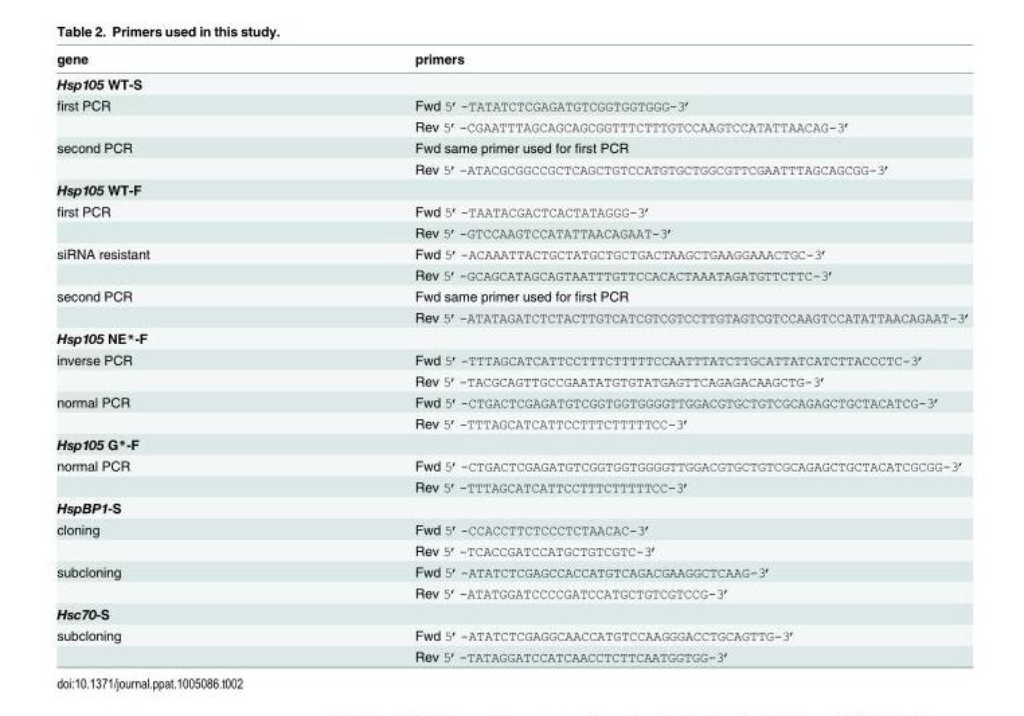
<table><thead><tr><td>gene</td><td>primers</td></tr></thead><tbody><tr><td colspan="2">Hsp105 WT-S</td></tr><tr><td rowspan="2">first PCR</td><td>Fwd 5’-TATATCTCGAGATGTCGGTGGTGGG-3’</td></tr><tr><td>Rev 5’-CGAATTTAGCAGCAGCGGTTTCTTTGTCCAAGTCCATATTAACAG-3’</td></tr><tr><td rowspan="2">second PCR</td><td>Fwd same primer used for first PCR</td></tr><tr><td>Rev 5’-ATACGCGGCCGCTCAGCTGTCCATGTGCTGGCGTTCGAATTTAGCAGCGG-3’</td></tr><tr><td colspan="2">Hsp105 WT-F</td></tr><tr><td rowspan="2">first PCR</td><td>Fwd 5’-TAATACGACTCACTATAGGG-3’</td></tr><tr><td>Rev 5’-GTCCAAGTCCATATTAACAGAAT-3’</td></tr><tr><td rowspan="2">siRNA resistant</td><td>Fwd 5’-ACAAATTACTGCTATGCTGCTGACTAAGCTGAAGGAAACTGC-3’</td></tr><tr><td>Rev 5’-GCAGCATAGCAGTAATTTGTTCCACACTAAATAGATGTTCTTC-3’</td></tr><tr><td rowspan="2">second PCR</td><td>Fwd same primer used for first PCR</td></tr><tr><td>Rev 5’-ATATAGATCTCTACTTGTCATCGTCGTCCTTGTAGTCGTCCAAGTCCATATTAACAGAAT-3’</td></tr><tr><td colspan="2">Hsp105 NE*-F</td></tr><tr><td rowspan="2">inverse PCR</td><td>Fwd 5’-TTTAGCATCATTCCTTTCTTTTTCCAATTTATCTTGCATTATCATCTTACCCTC-3’</td></tr><tr><td>Rev 5’-TACGCAGTTGCCGAATATGTGTATGAGTTCAGAGACAAGCTG-3’</td></tr><tr><td rowspan="2">normal PCR</td><td>Fwd 5’-CTGACTCGAGATGTCGGTGGTGGGGTTGGACGTGCTGTCGCAGAGCTGCTACATCG-3’</td></tr><tr><td>Rev 5’-TTTAGCATCATTCCTTTCTTTTTCC-3’</td></tr><tr><td colspan="2">Hsp105 G*-F</td></tr><tr><td rowspan="2">normal PCR</td><td>Fwd 5’-CTGACTCGAGATGTCGGTGGTGGGGTTGGACGTGCTGTCGCAGAGCTGCTACATCGCGG-3’</td></tr><tr><td>Rev 5’-TTTAGCATCATTCCTTTCTTTTTCC-3’</td></tr><tr><td colspan="2">HspBP1-S</td></tr><tr><td rowspan="2">cloning</td><td>Fwd 5’-CCACCTTCTCCCTCTAACAC-3’</td></tr><tr><td>Rev 5’-TCACCGATCCATGCTGTCGTC-3’</td></tr><tr><td rowspan="2">subcloning</td><td>Fwd 5’-ATATCTCGAGCCACCATGTCAGACGAAGGCTCAAG-3’</td></tr><tr><td>Rev 5’-ATATGGATCCCCGATCCATGCTGTCGTCCG-3’</td></tr><tr><td colspan="2">Hsc70-S</td></tr><tr><td rowspan="2">subcloning</td><td>Fwd 5’-ATATCTCGAGGCAACCATGTCCAAGGGACCTGCAGTTG-3’</td></tr><tr><td>Rev 5’-TATAGGATCCATCAACCTCTTCAATGGTGG-3’</td></tr></tbody></table>